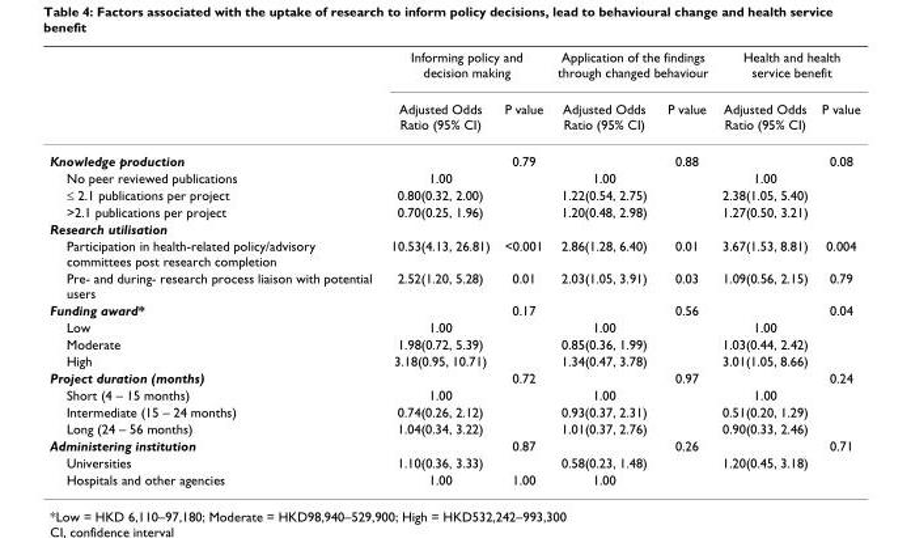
<table><thead><tr><td rowspan="2"></td><td colspan="2">Informing policy and decision making</td><td colspan="2">Application of the findings through changed behaviour</td><td colspan="2">Health and health service benefit</td></tr><tr><td>Adjusted Odds Ratio (95% CI)</td><td>P value</td><td>Adjusted Odds Ratio (95% CI)</td><td>P value</td><td>Adjusted Odds Ratio (95% CI)</td><td>P value</td></tr></thead><tbody><tr><td>Knowledge production</td><td></td><td>0.79</td><td></td><td>0.88</td><td></td><td>0.08</td></tr><tr><td>No peer reviewed publications</td><td>1.00</td><td></td><td>1.00</td><td></td><td>1.00</td><td></td></tr><tr><td>≤ 2.1 publications per project</td><td>0.80(0.32, 2.00)</td><td></td><td>1.22(0.54, 2.75)</td><td></td><td>2.38(1.05, 5.40)</td><td></td></tr><tr><td>&gt;2.1 publications per project</td><td>0.70(0.25, 1.96)</td><td></td><td>1.20(0.48, 2.98)</td><td></td><td>1.27(0.50, 3.21)</td><td></td></tr><tr><td colspan="7">Research utilisation</td></tr><tr><td>Participation in health-related policy/advisory committees post research completion</td><td>10.53(4.13, 26.81)</td><td>&lt;0.001</td><td>2.86(1.28, 6.40)</td><td>0.01</td><td>3.67(1.53, 8.81)</td><td>0.004</td></tr><tr><td>Pre- and during- research process liaison with potential users</td><td>2.52(1.20, 5.28)</td><td>0.01</td><td>2.03(1.05, 3.91)</td><td>0.03</td><td>1.09(0.56, 2.15)</td><td>0.79</td></tr><tr><td>Funding award*</td><td></td><td>0.17</td><td></td><td>0.56</td><td></td><td>0.04</td></tr><tr><td>Low</td><td>1.00</td><td></td><td>1.00</td><td></td><td>1.00</td><td></td></tr><tr><td>Moderate</td><td>1.98(0.72, 5.39)</td><td></td><td>0.85(0.36, 1.99)</td><td></td><td>1.03(0.44, 2.42)</td><td></td></tr><tr><td>High</td><td>3.18(0.95, 10.71)</td><td></td><td>1.34(0.47, 3.78)</td><td></td><td>3.01(1.05, 8.66)</td><td></td></tr><tr><td>Project duration (months)</td><td></td><td>0.72</td><td></td><td>0.97</td><td></td><td>0.24</td></tr><tr><td>Short (4 – 15 months)</td><td>1.00</td><td></td><td>1.00</td><td></td><td>1.00</td><td></td></tr><tr><td>Intermediate (15 – 24 months)</td><td>0.74(0.26, 2.12)</td><td></td><td>0.93(0.37, 2.31)</td><td></td><td>0.51(0.20, 1.29)</td><td></td></tr><tr><td>Long (24 – 56 months)</td><td>1.04(0.34, 3.22)</td><td></td><td>1.01(0.37, 2.76)</td><td></td><td>0.90(0.33, 2.46)</td><td></td></tr><tr><td>Administering institution</td><td></td><td>0.87</td><td></td><td>0.26</td><td></td><td>0.71</td></tr><tr><td>Universities</td><td>1.10(0.36, 3.33)</td><td></td><td>0.58(0.23, 1.48)</td><td></td><td>1.20(0.45, 3.18)</td><td></td></tr><tr><td>Hospitals and other agencies</td><td>1.00</td><td>1.00</td><td>1.00</td><td></td><td></td><td></td></tr></tbody></table>